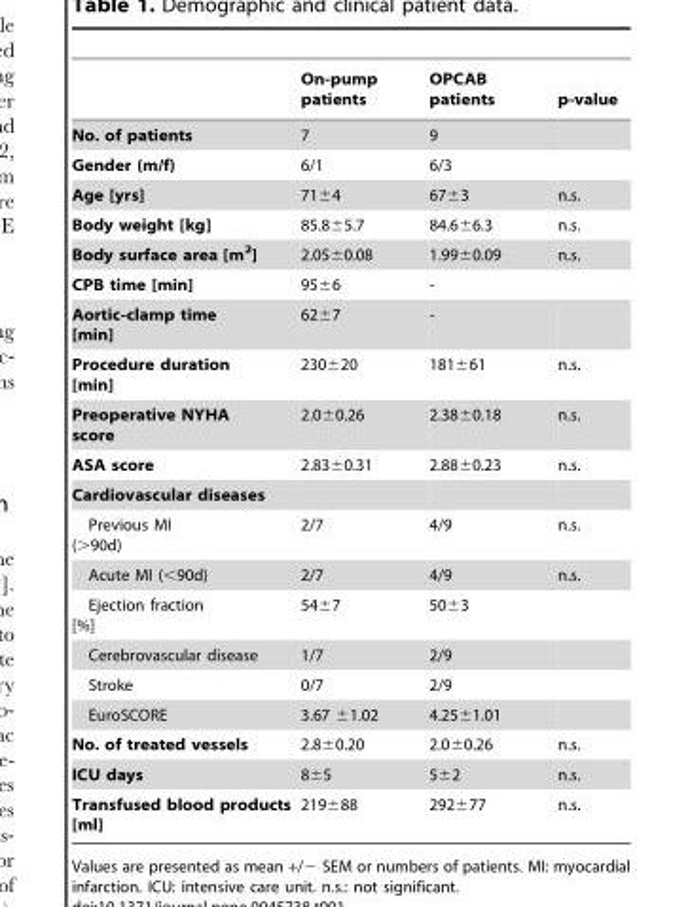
<table><thead><tr><td></td><td>On-pump patients</td><td>OPCAB patients</td><td>p-value</td></tr></thead><tbody><tr><td>No. of patients</td><td>7</td><td>9</td><td></td></tr><tr><td>Gender (m/f)</td><td>6/1</td><td>6/3</td><td></td></tr><tr><td>Age [yrs]</td><td>71±4</td><td>67±3</td><td>n.s.</td></tr><tr><td>Body weight [kg]</td><td>85.8±5.7</td><td>84.6±6.3</td><td>n.s.</td></tr><tr><td>Body surface area [m<sup>2</sup>]</td><td>2.05±0.08</td><td>1.99±0.09</td><td>n.s.</td></tr><tr><td>CPB time [min]</td><td>95±6</td><td>-</td><td></td></tr><tr><td>Aortic-clamp time [min]</td><td>62±7</td><td>-</td><td></td></tr><tr><td>Procedure duration [min]</td><td>230±20</td><td>181±61</td><td>n.s.</td></tr><tr><td>Preoperative NYHA score</td><td>2.0±0.26</td><td>2.38±0.18</td><td>n.s.</td></tr><tr><td>ASA score</td><td>2.83±0.31</td><td>2.88±0.23</td><td>n.s.</td></tr><tr><td colspan="4">Cardiovascular diseases</td></tr><tr><td>Previous MI (&gt;90d)</td><td>2/7</td><td>4/9</td><td>n.s.</td></tr><tr><td>Acute MI (&lt;90d)</td><td>2/7</td><td>4/9</td><td>n.s.</td></tr><tr><td>Ejection fraction [%]</td><td>54±7</td><td>50±3</td><td></td></tr><tr><td>Cerebrovascular disease</td><td>1/7</td><td>2/9</td><td></td></tr><tr><td>Stroke</td><td>0/7</td><td>2/9</td><td></td></tr><tr><td>EuroSCORE</td><td>3.67 ±1.02</td><td>4.25±1.01</td><td></td></tr><tr><td>No. of treated vessels</td><td>2.8±0.20</td><td>2.0±0.26</td><td>n.s.</td></tr><tr><td>ICU days</td><td>8±5</td><td>5±2</td><td>n.s.</td></tr><tr><td>Transfused blood products [ml]</td><td>219±88</td><td>292±77</td><td>n.s.</td></tr></tbody></table>